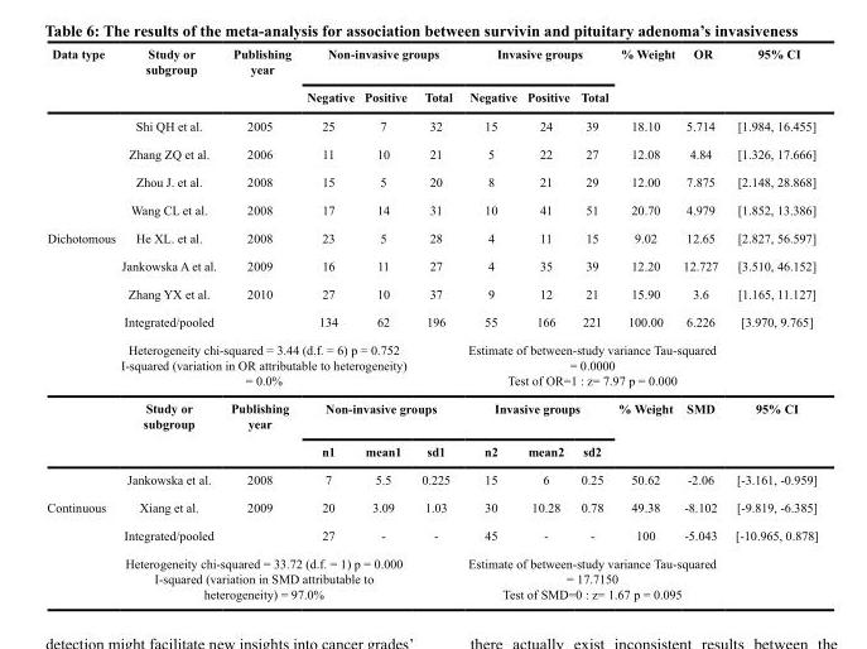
<table><thead><tr><td rowspan="2">Data type</td><td rowspan="2">Study or subgroup</td><td rowspan="2">Publishing year</td><td colspan="3">Non-invasive groups</td><td colspan="3">Invasive groups</td><td rowspan="2">% Weight</td><td rowspan="2">OR</td><td rowspan="2">95% CI</td></tr><tr><td>Negative</td><td>Positive</td><td>Total</td><td>Negative</td><td>Positive</td><td>Total</td></tr></thead><tbody><tr><td></td><td>Shi QH et al.</td><td>2005</td><td>25</td><td>7</td><td>32</td><td>15</td><td>24</td><td>39</td><td>18.10</td><td>5.714</td><td>[1.984, 16.455]</td></tr><tr><td></td><td>Zhang ZQ et al.</td><td>2006</td><td>11</td><td>10</td><td>21</td><td>5</td><td>22</td><td>27</td><td>12.08</td><td>4.84</td><td>[1.326, 17.666]</td></tr><tr><td></td><td>Zhou J. et al.</td><td>2008</td><td>15</td><td>5</td><td>20</td><td>8</td><td>21</td><td>29</td><td>12.00</td><td>7.875</td><td>[2.148, 28.868]</td></tr><tr><td></td><td>Wang CL et al.</td><td>2008</td><td>17</td><td>14</td><td>31</td><td>10</td><td>41</td><td>51</td><td>20.70</td><td>4.979</td><td>[1.852, 13.386]</td></tr><tr><td rowspan="8">Dichotomous</td><td>He XL. et al.</td><td>2008</td><td>23</td><td>5</td><td>28</td><td>4</td><td>11</td><td>15</td><td>9.02</td><td>12.65</td><td>[2.827, 56.597]</td></tr><tr><td>Jankowska A et al.</td><td>2009</td><td>16</td><td>11</td><td>27</td><td>4</td><td>35</td><td>39</td><td>12.20</td><td>12.727</td><td>[3.510, 46.152]</td></tr><tr><td>Zhang YX et al.</td><td>2010</td><td>27</td><td>10</td><td>37</td><td>9</td><td>12</td><td>21</td><td>15.90</td><td>3.6</td><td>[1.165, 11.127]</td></tr><tr><td>Integrated/pooled</td><td></td><td>134</td><td>62</td><td>196</td><td>55</td><td>166</td><td>221</td><td>100.00</td><td>6.226</td><td>[3.970, 9.765]</td></tr><tr><td colspan="4">Heterogeneity chi-squared = 3.44 (d.f. = 6) p = 0.752 I-squared (variation in OR attributable to heterogeneity) = 0.0%</td><td></td><td colspan="5">Estimate of between-study variance Tau-squared = 0.0000 Test of OR=1 : z= 7.97 p = 0.000</td><td></td></tr><tr><td rowspan="2">Study or subgroup</td><td rowspan="2">Publishing year</td><td colspan="3">Non-invasive groups</td><td colspan="3">Invasive groups</td><td rowspan="2">% Weight</td><td rowspan="2">SMD</td><td rowspan="2">95% CI</td></tr><tr><td>n1</td><td>mean1</td><td>sd1</td><td>n2</td><td>mean2</td><td>sd2</td></tr><tr><td>Jankowska et al.</td><td>2008</td><td>7</td><td>5.5</td><td>0.225</td><td>15</td><td>6</td><td>0.25</td><td>50.62</td><td>-2.06</td><td>[-3.161, -0.959]</td></tr><tr><td rowspan="3">Continuous</td><td>Xiang et al.</td><td>2009</td><td>20</td><td>3.09</td><td>1.03</td><td>30</td><td>10.28</td><td>0.78</td><td>49.38</td><td>-8.102</td><td>[-9.819, -6.385]</td></tr><tr><td>Integrated/pooled</td><td></td><td>27</td><td>-</td><td>-</td><td>45</td><td>-</td><td>-</td><td>100</td><td>-5.043</td><td>[-10.965, 0.878]</td></tr><tr><td colspan="4">Heterogeneity chi-squared = 33.72 (d.f. = 1) p = 0.000 I-squared (variation in SMD attributable to heterogeneity) = 97.0%</td><td></td><td colspan="5">Estimate of between-study variance Tau-squared = 17.7150 Test of SMD=0 : z= 1.67 p = 0.095</td><td></td></tr></tbody></table>